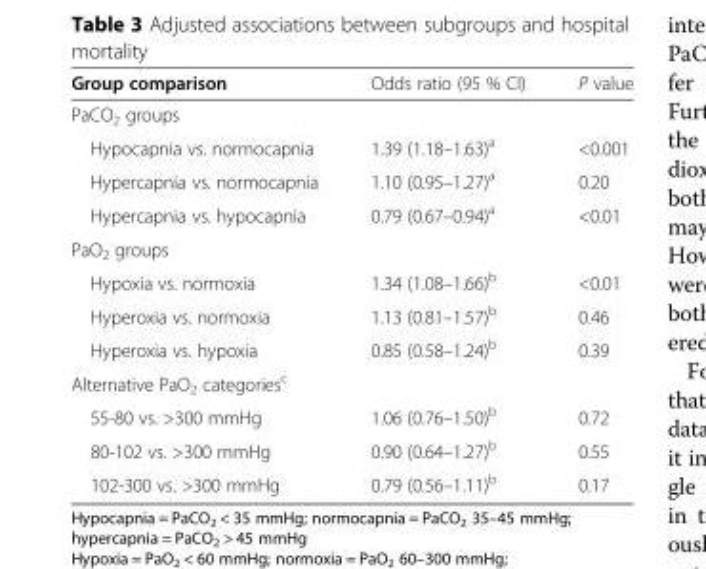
<table><thead><tr><td>Group comparison</td><td>Odds ratio (95 % CI)</td><td>P value</td></tr></thead><tbody><tr><td colspan="3">PaCO<sub>2</sub> groups</td></tr><tr><td>Hypocapnia vs. normocapnia</td><td>1.39 (1.18–1.63)<sup>a</sup></td><td>&lt;0.001</td></tr><tr><td>Hypercapnia vs. normocapnia</td><td>1.10 (0.95–1.27)<sup>a</sup></td><td>0.20</td></tr><tr><td>Hypercapnia vs. hypocapnia</td><td>0.79 (0.67–0.94)<sup>a</sup></td><td>&lt;0.01</td></tr><tr><td colspan="3">PaO<sub>2</sub> groups</td></tr><tr><td>Hypoxia vs. normoxia</td><td>1.34 (1.08–1.66)<sup>b</sup></td><td>&lt;0.01</td></tr><tr><td>Hyperoxia vs. normoxia</td><td>1.13 (0.81–1.57)<sup>b</sup></td><td>0.46</td></tr><tr><td>Hyperoxia vs. hypoxia</td><td>0.85 (0.58–1.24)<sup>b</sup></td><td>0.39</td></tr><tr><td colspan="3">Alternative PaO<sub>2</sub> categories<sup>c</sup></td></tr><tr><td>55-80 vs. &gt;300 mmHg</td><td>1.06 (0.76–1.50)<sup>b</sup></td><td>0.72</td></tr><tr><td>80-102 vs. &gt;300 mmHg</td><td>0.90 (0.64–1.27)<sup>b</sup></td><td>0.55</td></tr><tr><td>102-300 vs. &gt;300 mmHg</td><td>0.79 (0.56–1.11)<sup>b</sup></td><td>0.17</td></tr></tbody></table>